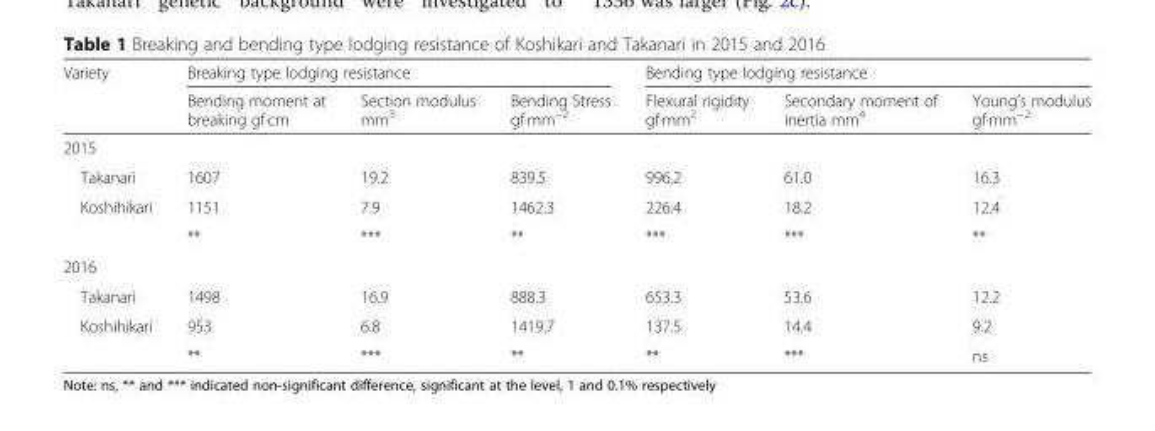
<table><thead><tr><td rowspan="2">Variety</td><td colspan="3">Breaking type lodging resistance</td><td colspan="3">Bending type lodging resistance</td></tr><tr><td>Bending moment at breaking gf·cm</td><td>Section modulus mm<sup>3</sup></td><td>Bending Stress gf·mm<sup>−2</sup></td><td>Flexural rigidity gf·mm<sup>2</sup></td><td>Secondary moment of inertia mm<sup>4</sup></td><td>Young’s modulus gf·mm<sup>−2</sup></td></tr></thead><tbody><tr><td colspan="7">2015</td></tr><tr><td>Takanari</td><td>1607</td><td>19.2</td><td>839.5</td><td>996.2</td><td>61.0</td><td>16.3</td></tr><tr><td rowspan="2">Koshihikari</td><td>1151</td><td>7.9</td><td>1462.3</td><td>226.4</td><td>18.2</td><td>12.4</td></tr><tr><td>**</td><td>***</td><td>**</td><td>***</td><td>***</td><td>**</td></tr><tr><td colspan="7">2016</td></tr><tr><td>Takanari</td><td>1498</td><td>16.9</td><td>888.3</td><td>653.3</td><td>53.6</td><td>12.2</td></tr><tr><td rowspan="2">Koshihikari</td><td>953</td><td>6.8</td><td>1419.7</td><td>137.5</td><td>14.4</td><td>9.2</td></tr><tr><td>**</td><td>***</td><td>**</td><td>**</td><td>***</td><td>ns</td></tr></tbody></table>